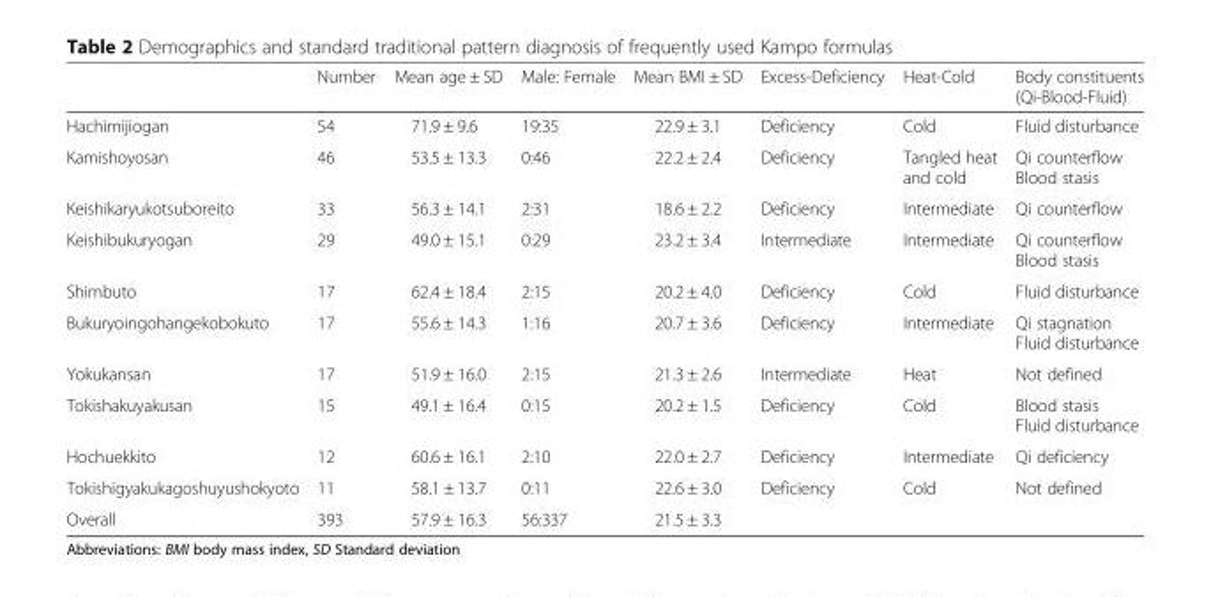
<table><thead><tr><td></td><td>Number</td><td>Mean age ± SD</td><td>Male: Female</td><td>Mean BMI ± SD</td><td>Excess-Deficiency</td><td>Heat-Cold</td><td>Body constituents (Qi-Blood-Fluid)</td></tr></thead><tbody><tr><td>Hachimijiogan</td><td>54</td><td>71.9 ± 9.6</td><td>19:35</td><td>22.9 ± 3.1</td><td>Deficiency</td><td>Cold</td><td>Fluid disturbance</td></tr><tr><td>Kamishoyosan</td><td>46</td><td>53.5 ± 13.3</td><td>0:46</td><td>22.2 ± 2.4</td><td>Deficiency</td><td>Tangled heat and cold</td><td>Qi counterflow Blood stasis</td></tr><tr><td>Keishikaryukotsuboreito</td><td>33</td><td>56.3 ± 14.1</td><td>2:31</td><td>18.6 ± 2.2</td><td>Deficiency</td><td>Intermediate</td><td>Qi counterflow</td></tr><tr><td>Keishibukuryogan</td><td>29</td><td>49.0 ± 15.1</td><td>0:29</td><td>23.2 ± 3.4</td><td>Intermediate</td><td>Intermediate</td><td>Qi counterflow Blood stasis</td></tr><tr><td>Shimbuto</td><td>17</td><td>62.4 ± 18.4</td><td>2:15</td><td>20.2 ± 4.0</td><td>Deficiency</td><td>Cold</td><td>Fluid disturbance</td></tr><tr><td>Bukuryoingohangekobokuto</td><td>17</td><td>55.6 ± 14.3</td><td>1:16</td><td>20.7 ± 3.6</td><td>Deficiency</td><td>Intermediate</td><td>Qi stagnation Fluid disturbance</td></tr><tr><td>Yokukansan</td><td>17</td><td>51.9 ± 16.0</td><td>2:15</td><td>21.3 ± 2.6</td><td>Intermediate</td><td>Heat</td><td>Not defined</td></tr><tr><td>Tokishakuyakusan</td><td>15</td><td>49.1 ± 16.4</td><td>0:15</td><td>20.2 ± 1.5</td><td>Deficiency</td><td>Cold</td><td>Blood stasis Fluid disturbance</td></tr><tr><td>Hochuekkito</td><td>12</td><td>60.6 ± 16.1</td><td>2:10</td><td>22.0 ± 2.7</td><td>Deficiency</td><td>Intermediate</td><td>Qi deficiency</td></tr><tr><td>Tokishigyakukagoshuyushokyoto</td><td>11</td><td>58.1 ± 13.7</td><td>0:11</td><td>22.6 ± 3.0</td><td>Deficiency</td><td>Cold</td><td>Not defined</td></tr><tr><td>Overall</td><td>393</td><td>57.9 ± 16.3</td><td>56:337</td><td>21.5 ± 3.3</td><td></td><td></td><td></td></tr></tbody></table>